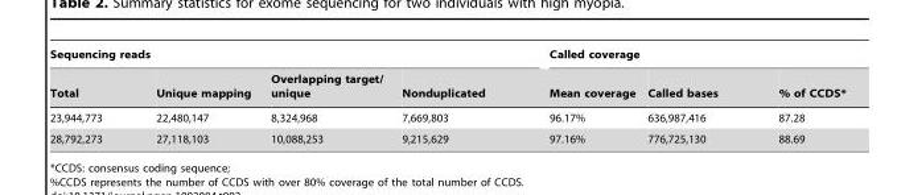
<table><thead><tr><td colspan="4">Sequencing reads</td><td colspan="3">Called coverage</td></tr><tr><td>Total</td><td>Unique mapping</td><td>Overlapping target/ unique</td><td>Nonduplicated</td><td>Mean coverage</td><td>Called bases</td><td>% of CCDS*</td></tr></thead><tbody><tr><td>23,944,773</td><td>22,480,147</td><td>8,324,968</td><td>7,669,803</td><td>96.17%</td><td>636,987,416</td><td>87.28</td></tr><tr><td>28,792,273</td><td>27,118,103</td><td>10,088,253</td><td>9,215,629</td><td>97.16%</td><td>776,725,130</td><td>88.69</td></tr></tbody></table>